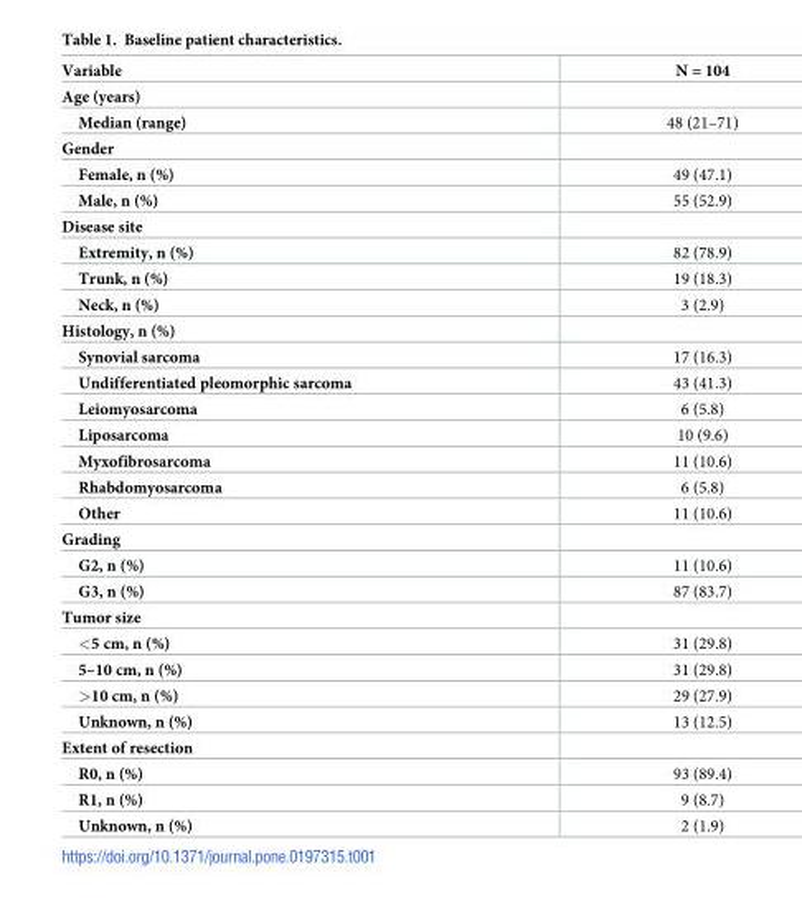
<table><thead><tr><td>Variable</td><td>N = 104</td></tr></thead><tbody><tr><td colspan="2">Age (years)</td></tr><tr><td>Median (range)</td><td>48 (21–71)</td></tr><tr><td colspan="2">Gender</td></tr><tr><td>Female, n (%)</td><td>49 (47.1)</td></tr><tr><td>Male, n (%)</td><td>55 (52.9)</td></tr><tr><td colspan="2">Disease site</td></tr><tr><td>Extremity, n (%)</td><td>82 (78.9)</td></tr><tr><td>Trunk, n (%)</td><td>19 (18.3)</td></tr><tr><td>Neck, n (%)</td><td>3 (2.9)</td></tr><tr><td colspan="2">Histology, n (%)</td></tr><tr><td>Synovial sarcoma</td><td>17 (16.3)</td></tr><tr><td>Undifferentiated pleomorphic sarcoma</td><td>43 (41.3)</td></tr><tr><td>Leiomyosarcoma</td><td>6 (5.8)</td></tr><tr><td>Liposarcoma</td><td>10 (9.6)</td></tr><tr><td>Myxofibrosarcoma</td><td>11 (10.6)</td></tr><tr><td>Rhabdomyosarcoma</td><td>6 (5.8)</td></tr><tr><td>Other</td><td>11 (10.6)</td></tr><tr><td colspan="2">Grading</td></tr><tr><td>G2, n (%)</td><td>11 (10.6)</td></tr><tr><td>G3, n (%)</td><td>87 (83.7)</td></tr><tr><td colspan="2">Tumor size</td></tr><tr><td>&lt;5 cm, n (%)</td><td>31 (29.8)</td></tr><tr><td>5–10 cm, n (%)</td><td>31 (29.8)</td></tr><tr><td>&gt;10 cm, n (%)</td><td>29 (27.9)</td></tr><tr><td>Unknown, n (%)</td><td>13 (12.5)</td></tr><tr><td colspan="2">Extent of resection</td></tr><tr><td>R0, n (%)</td><td>93 (89.4)</td></tr><tr><td>R1, n (%)</td><td>9 (8.7)</td></tr><tr><td>Unknown, n (%)</td><td>2 (1.9)</td></tr></tbody></table>